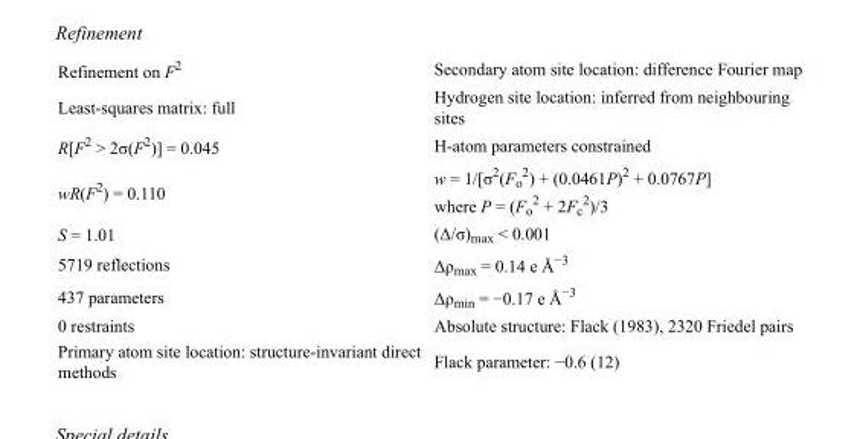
<table><tbody><tr><td>Refinement on F<sup>2</sup></td><td>Secondary atom site location: difference Fourier map</td></tr><tr><td>Least-squares matrix: full</td><td>Hydrogen site location: inferred from neighbouring sites</td></tr><tr><td>R[F<sup>2</sup> &gt; 2σ(F<sup>2</sup>)] = 0.045</td><td>H-atom parameters constrained</td></tr><tr><td>wR(F<sup>2</sup>) = 0.110</td><td>w = 1/[σ<sup>2</sup>(F<sub>o</sub> <sup>2</sup>) + (0.0461P)<sup>2</sup> + 0.0767P] where P = (F<sub>o</sub> <sup>2</sup> + 2F<sub>c</sub> <sup>2</sup>)/3</td></tr><tr><td>S = 1.01</td><td>(Δ/σ)<sub>max</sub> &lt; 0.001</td></tr><tr><td>5719 reflections</td><td>Δρ<sub>max</sub> = 0.14 e Å<sup>−3</sup></td></tr><tr><td>437 parameters</td><td>Δρ<sub>min</sub> = −0.17 e Å<sup>−3</sup></td></tr><tr><td>0 restraints</td><td>Absolute structure: Flack (1983), 2320 Friedel pairs</td></tr><tr><td>Primary atom site location: structure-invariant direct methods</td><td>Flack parameter: −0.6 (12)</td></tr></tbody></table>